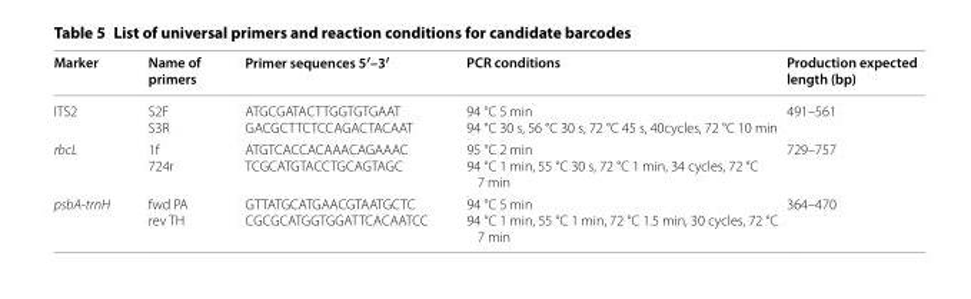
<table><thead><tr><td>Marker</td><td>Name of primers</td><td>Primer sequences 5′–3′</td><td>PCR conditions</td><td>Production expected length (bp)</td></tr></thead><tbody><tr><td>ITS2</td><td>S2F S3R</td><td>ATGCGATACTTGGTGTGAAT GACGCTTCTCCAGACTACAAT</td><td>94 °C 5 min 94 °C 30 s, 56 °C 30 s, 72 °C 45 s, 40cycles, 72 °C 10 min</td><td>491–561</td></tr><tr><td>rbcL</td><td>1f 724r</td><td>ATGTCACCACAAACAGAAAC TCGCATGTACCTGCAGTAGC</td><td>95 °C 2 min 94 °C 1 min, 55 °C 30 s, 72 °C 1 min, 34 cycles, 72 °C 7 min</td><td>729–757</td></tr><tr><td>psbA‑trnH</td><td>fwd PA rev TH</td><td>GTTATGCATGAACGTAATGCTC CGCGCATGGTGGATTCACAATCC</td><td>94 °C 5 min 94 °C 1 min, 55 °C 1 min, 72 °C 1.5 min, 30 cycles, 72 °C 7 min</td><td>364–470</td></tr></tbody></table>